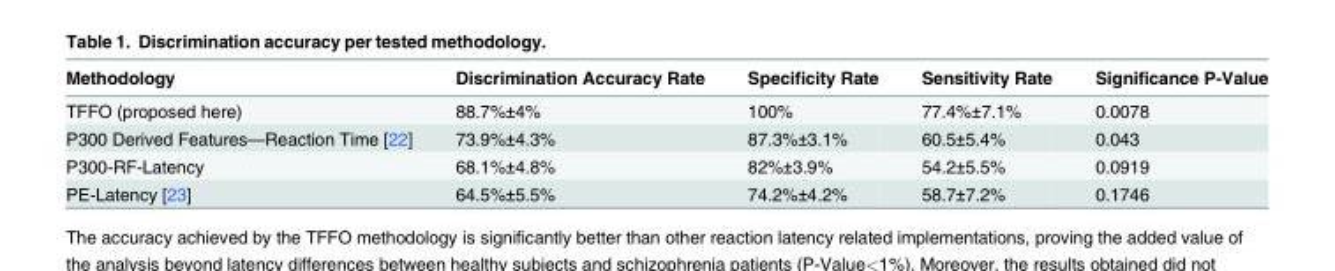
<table><thead><tr><td>Methodology</td><td>Discrimination Accuracy Rate</td><td>Specificity Rate</td><td>Sensitivity Rate</td><td>Significance P-Value</td></tr></thead><tbody><tr><td>TFFO (proposed here)</td><td>88.7%±4%</td><td>100%</td><td>77.4%±7.1%</td><td>0.0078</td></tr><tr><td>P300 Derived Features—Reaction Time [22]</td><td>73.9%±4.3%</td><td>87.3%±3.1%</td><td>60.5±5.4%</td><td>0.043</td></tr><tr><td>P300-RF-Latency</td><td>68.1%±4.8%</td><td>82%±3.9%</td><td>54.2±5.5%</td><td>0.0919</td></tr><tr><td>PE-Latency [23]</td><td>64.5%±5.5%</td><td>74.2%±4.2%</td><td>58.7±7.2%</td><td>0.1746</td></tr></tbody></table>